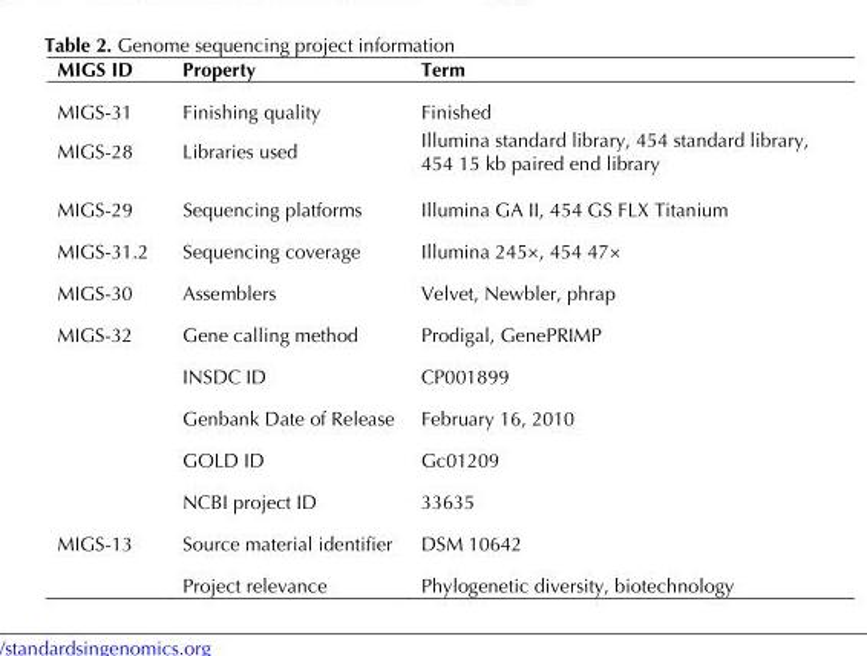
<table><thead><tr><td>MIGS ID</td><td>Property</td><td>Term</td></tr></thead><tbody><tr><td>MIGS-31</td><td>Finishing quality</td><td>Finished</td></tr><tr><td>MIGS-28</td><td>Libraries used</td><td>Illumina standard library, 454 standard library, 454 15 kb paired end library</td></tr><tr><td>MIGS-29</td><td>Sequencing platforms</td><td>Illumina GA II, 454 GS FLX Titanium</td></tr><tr><td>MIGS-31.2</td><td>Sequencing coverage</td><td>Illumina 245×, 454 47×</td></tr><tr><td>MIGS-30</td><td>Assemblers</td><td>Velvet, Newbler, phrap</td></tr><tr><td rowspan="5">MIGS-32</td><td>Gene calling method</td><td>Prodigal, GenePRIMP</td></tr><tr><td>INSDC ID</td><td>CP001899</td></tr><tr><td>Genbank Date of Release</td><td>February 16, 2010</td></tr><tr><td>GOLD ID</td><td>Gc01209</td></tr><tr><td>NCBI project ID</td><td>33635</td></tr><tr><td rowspan="2">MIGS-13</td><td>Source material identifier</td><td>DSM 10642</td></tr><tr><td>Project relevance</td><td>Phylogenetic diversity, biotechnology</td></tr></tbody></table>